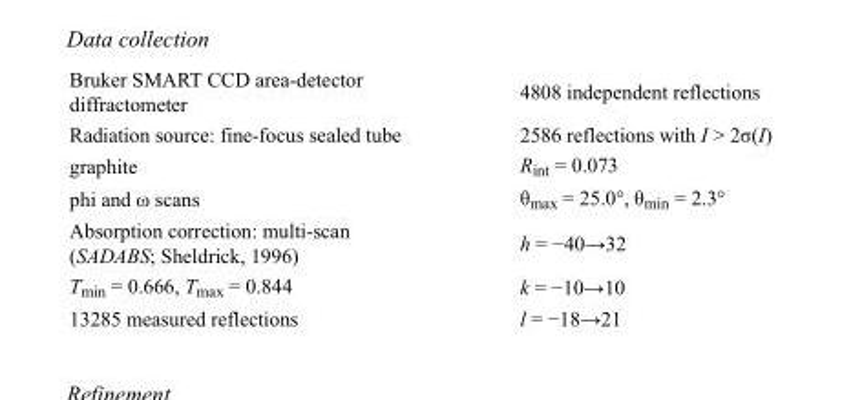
<table><tbody><tr><td>Bruker SMART CCD area-detector diffractometer</td><td>4808 independent reflections</td></tr><tr><td>Radiation source: fine-focus sealed tube</td><td>2586 reflections with I &gt; 2σ(I)</td></tr><tr><td>graphite</td><td>R<sub>int</sub> = 0.073</td></tr><tr><td>phi and ω scans</td><td>θ<sub>max</sub> = 25.0°, θ<sub>min</sub> = 2.3°</td></tr><tr><td>Absorption correction: multi-scan (SADABS; Sheldrick, 1996)</td><td>h = −40→32</td></tr><tr><td>T<sub>min</sub> = 0.666, T<sub>max</sub> = 0.844</td><td>k = −10→10</td></tr><tr><td>13285 measured reflections</td><td>l = −18→21</td></tr></tbody></table>